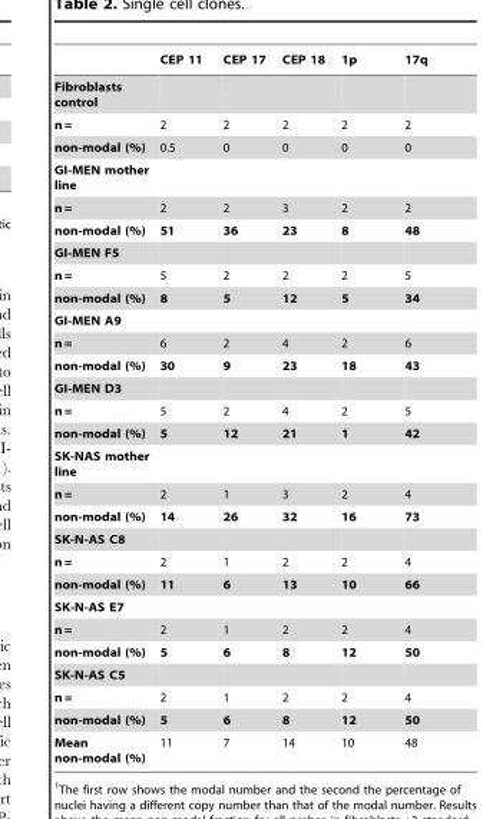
<table><thead><tr><td></td><td>CEP 11</td><td>CEP 17</td><td>CEP 18</td><td>1p</td><td>17q</td></tr></thead><tbody><tr><td colspan="6">Fibroblasts control</td></tr><tr><td>n =</td><td>2</td><td>2</td><td>2</td><td>2</td><td>2</td></tr><tr><td>non-modal (%)</td><td>0.5</td><td>0</td><td>0</td><td>0</td><td>0</td></tr><tr><td colspan="6">GI-MEN mother line</td></tr><tr><td>n =</td><td>2</td><td>2</td><td>3</td><td>2</td><td>2</td></tr><tr><td>non-modal (%)</td><td>51</td><td>36</td><td>23</td><td>8</td><td>48</td></tr><tr><td colspan="6">GI-MEN F5</td></tr><tr><td>n =</td><td>5</td><td>2</td><td>2</td><td>2</td><td>5</td></tr><tr><td>non-modal (%)</td><td>8</td><td>5</td><td>12</td><td>5</td><td>34</td></tr><tr><td colspan="6">GI-MEN A9</td></tr><tr><td>n =</td><td>6</td><td>2</td><td>4</td><td>2</td><td>6</td></tr><tr><td>non-modal (%)</td><td>30</td><td>9</td><td>23</td><td>18</td><td>43</td></tr><tr><td colspan="6">GI-MEN D3</td></tr><tr><td>n =</td><td>5</td><td>2</td><td>4</td><td>2</td><td>5</td></tr><tr><td>non-modal (%)</td><td>5</td><td>12</td><td>21</td><td>1</td><td>42</td></tr><tr><td colspan="6">SK-NAS mother line</td></tr><tr><td>n =</td><td>2</td><td>1</td><td>3</td><td>2</td><td>4</td></tr><tr><td>non-modal (%)</td><td>14</td><td>26</td><td>32</td><td>16</td><td>73</td></tr><tr><td colspan="6">SK-N-AS C8</td></tr><tr><td>n =</td><td>2</td><td>1</td><td>2</td><td>2</td><td>4</td></tr><tr><td>non-modal (%)</td><td>11</td><td>6</td><td>13</td><td>10</td><td>66</td></tr><tr><td colspan="6">SK-N-AS E7</td></tr><tr><td>n =</td><td>2</td><td>1</td><td>2</td><td>2</td><td>4</td></tr><tr><td>non-modal (%)</td><td>5</td><td>6</td><td>8</td><td>12</td><td>50</td></tr><tr><td colspan="6">SK-N-AS C5</td></tr><tr><td>n =</td><td>2</td><td>1</td><td>2</td><td>2</td><td>4</td></tr><tr><td>non-modal (%)</td><td>5</td><td>6</td><td>8</td><td>12</td><td>50</td></tr><tr><td>Mean non-modal (%)</td><td>11</td><td>7</td><td>14</td><td>10</td><td>48</td></tr></tbody></table>